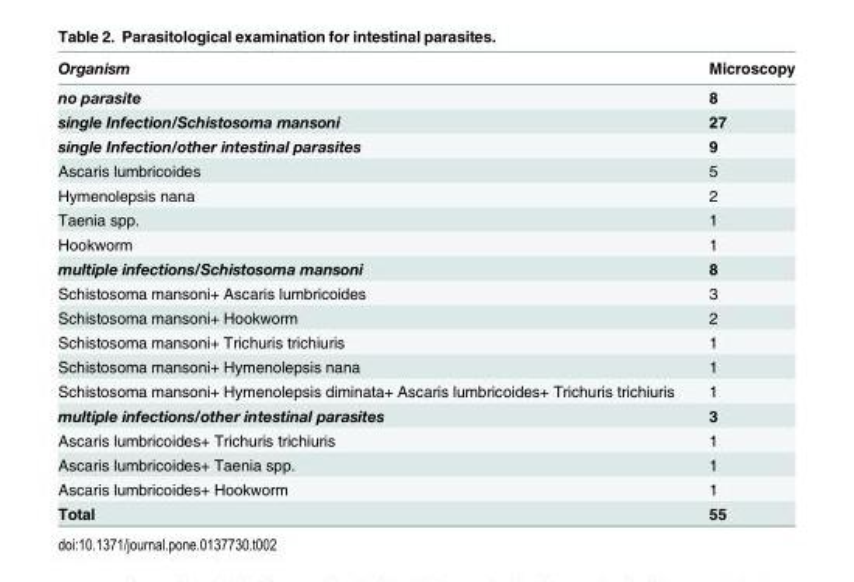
<table><thead><tr><td>Organism</td><td>Microscopy</td></tr></thead><tbody><tr><td>no parasite</td><td>8</td></tr><tr><td>single Infection/Schistosoma mansoni</td><td>27</td></tr><tr><td>single Infection/other intestinal parasites</td><td>9</td></tr><tr><td>Ascaris lumbricoides</td><td>5</td></tr><tr><td>Hymenolepsis nana</td><td>2</td></tr><tr><td>Taenia spp.</td><td>1</td></tr><tr><td>Hookworm</td><td>1</td></tr><tr><td>multiple infections/Schistosoma mansoni</td><td>8</td></tr><tr><td>Schistosoma mansoni+ Ascaris lumbricoides</td><td>3</td></tr><tr><td>Schistosoma mansoni+ Hookworm</td><td>2</td></tr><tr><td>Schistosoma mansoni+ Trichuris trichiuris</td><td>1</td></tr><tr><td>Schistosoma mansoni+ Hymenolepsis nana</td><td>1</td></tr><tr><td>Schistosoma mansoni+ Hymenolepsis diminata+ Ascaris lumbricoides+ Trichuris trichiuris</td><td>1</td></tr><tr><td>multiple infections/other intestinal parasites</td><td>3</td></tr><tr><td>Ascaris lumbricoides+ Trichuris trichiuris</td><td>1</td></tr><tr><td>Ascaris lumbricoides+ Taenia spp.</td><td>1</td></tr><tr><td>Ascaris lumbricoides+ Hookworm</td><td>1</td></tr><tr><td>Total</td><td>55</td></tr></tbody></table>